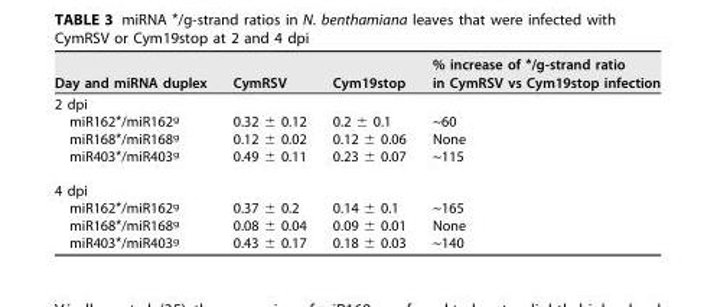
<table><thead><tr><td>Day and miRNA duplex</td><td>CymRSV</td><td>Cym19stop</td><td>% increase of */g-strand ratio in CymRSV vs Cym19stop infection</td></tr></thead><tbody><tr><td colspan="4">2 dpi</td></tr><tr><td>miR162*/miR162<sup>g</sup></td><td>0.32 ± 0.12</td><td>0.2 ± 0.1</td><td>~60</td></tr><tr><td>miR168*/miR168<sup>g</sup></td><td>0.12 ± 0.02</td><td>0.12 ± 0.06</td><td>None</td></tr><tr><td>miR403*/miR403<sup>g</sup></td><td>0.49 ± 0.11</td><td>0.23 ± 0.07</td><td>~115</td></tr><tr><td colspan="4">4 dpi</td></tr><tr><td>miR162*/miR162<sup>g</sup></td><td>0.37 ± 0.2</td><td>0.14 ± 0.1</td><td>~165</td></tr><tr><td>miR168*/miR168<sup>g</sup></td><td>0.08 ± 0.04</td><td>0.09 ± 0.01</td><td>None</td></tr><tr><td>miR403*/miR403<sup>g</sup></td><td>0.43 ± 0.17</td><td>0.18 ± 0.03</td><td>~140</td></tr></tbody></table>